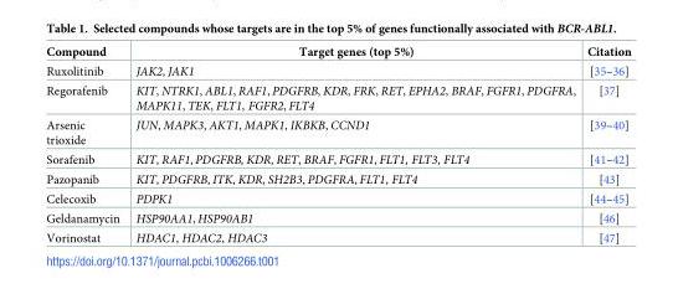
<table><thead><tr><td>Compound</td><td>Target genes (top 5%)</td><td>Citation</td></tr></thead><tbody><tr><td>Ruxolitinib</td><td>JAK2, JAK1</td><td>[35–36]</td></tr><tr><td>Regorafenib</td><td>KIT, NTRK1, ABL1, RAF1, PDGFRB, KDR, FRK, RET, EPHA2, BRAF, FGFR1, PDGFRA, MAPK11, TEK, FLT1, FGFR2, FLT4</td><td>[37]</td></tr><tr><td>Arsenic trioxide</td><td>JUN, MAPK3, AKT1, MAPK1, IKBKB, CCND1</td><td>[39–40]</td></tr><tr><td>Sorafenib</td><td>KIT, RAF1, PDGFRB, KDR, RET, BRAF, FGFR1, FLT1, FLT3, FLT4</td><td>[41–42]</td></tr><tr><td>Pazopanib</td><td>KIT, PDGFRB, ITK, KDR, SH2B3, PDGFRA, FLT1, FLT4</td><td>[43]</td></tr><tr><td>Celecoxib</td><td>PDPK1</td><td>[44–45]</td></tr><tr><td>Geldanamycin</td><td>HSP90AA1, HSP90AB1</td><td>[46]</td></tr><tr><td>Vorinostat</td><td>HDAC1, HDAC2, HDAC3</td><td>[47]</td></tr></tbody></table>